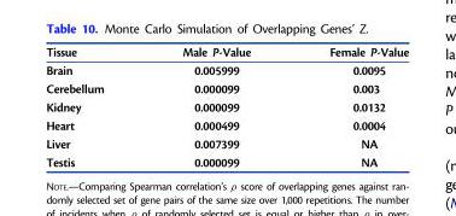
<table><thead><tr><td>Tissue</td><td>Male P-Value</td><td>Female P-Value</td></tr></thead><tbody><tr><td>Brain</td><td>0.005999</td><td>0.0095</td></tr><tr><td>Cerebellum</td><td>0.000099</td><td>0.003</td></tr><tr><td>Kidney</td><td>0.000099</td><td>0.0132</td></tr><tr><td>Heart</td><td>0.000499</td><td>0.0004</td></tr><tr><td>Liver</td><td>0.007399</td><td>NA</td></tr><tr><td>Testis</td><td>0.000099</td><td>NA</td></tr></tbody></table>